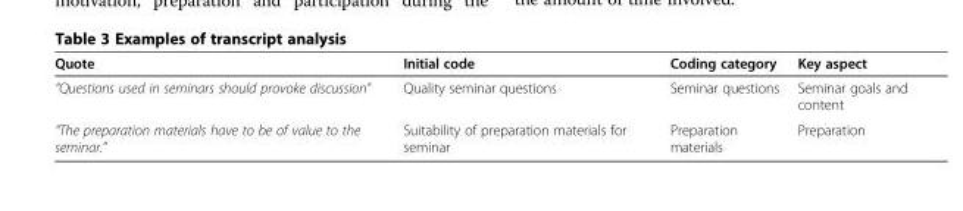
<table><thead><tr><td>Quote</td><td>Initial code</td><td>Coding category</td><td>Key aspect</td></tr></thead><tbody><tr><td>“Questions used in seminars should provoke discussion”</td><td>Quality seminar questions</td><td>Seminar questions</td><td>Seminar goals and content</td></tr><tr><td>“The preparation materials have to be of value to the seminar.”</td><td>Suitability of preparation materials for seminar</td><td>Preparation materials</td><td>Preparation</td></tr></tbody></table>